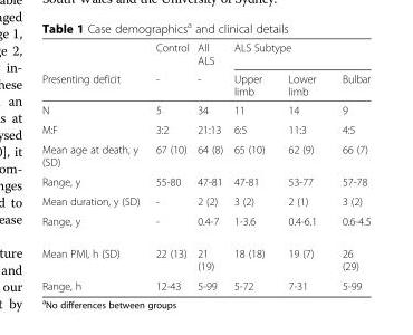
<table><thead><tr><td rowspan="2">Presenting deficit</td><td rowspan="2">Control -</td><td rowspan="2">All ALS -</td><td colspan="3">ALS Subtype</td></tr><tr><td>Upper limb</td><td>Lower limb</td><td>Bulbar</td></tr></thead><tbody><tr><td>N</td><td>5</td><td>34</td><td>11</td><td>14</td><td>9</td></tr><tr><td>M:F</td><td>3:2</td><td>21:13</td><td>6:5</td><td>11:3</td><td>4:5</td></tr><tr><td>Mean age at death, y (SD)</td><td>67 (10)</td><td>64 (8)</td><td>65 (10)</td><td>62 (9)</td><td>66 (7)</td></tr><tr><td>Range, y</td><td>55-80</td><td>47-81</td><td>47-81</td><td>53-77</td><td>57-78</td></tr><tr><td>Mean duration, y (SD)</td><td>-</td><td>2 (2)</td><td>3 (2)</td><td>2 (1)</td><td>3 (2)</td></tr><tr><td>Range, y</td><td>-</td><td>0.4-7</td><td>1-3.6</td><td>0.4-6.1</td><td>0.6-4.5</td></tr><tr><td>Mean PMI, h (SD)</td><td>22 (13)</td><td>21 (19)</td><td>18 (18)</td><td>19 (7)</td><td>26 (29)</td></tr><tr><td>Range, h</td><td>12-43</td><td>5-99</td><td>5-72</td><td>7-31</td><td>5-99</td></tr></tbody></table>